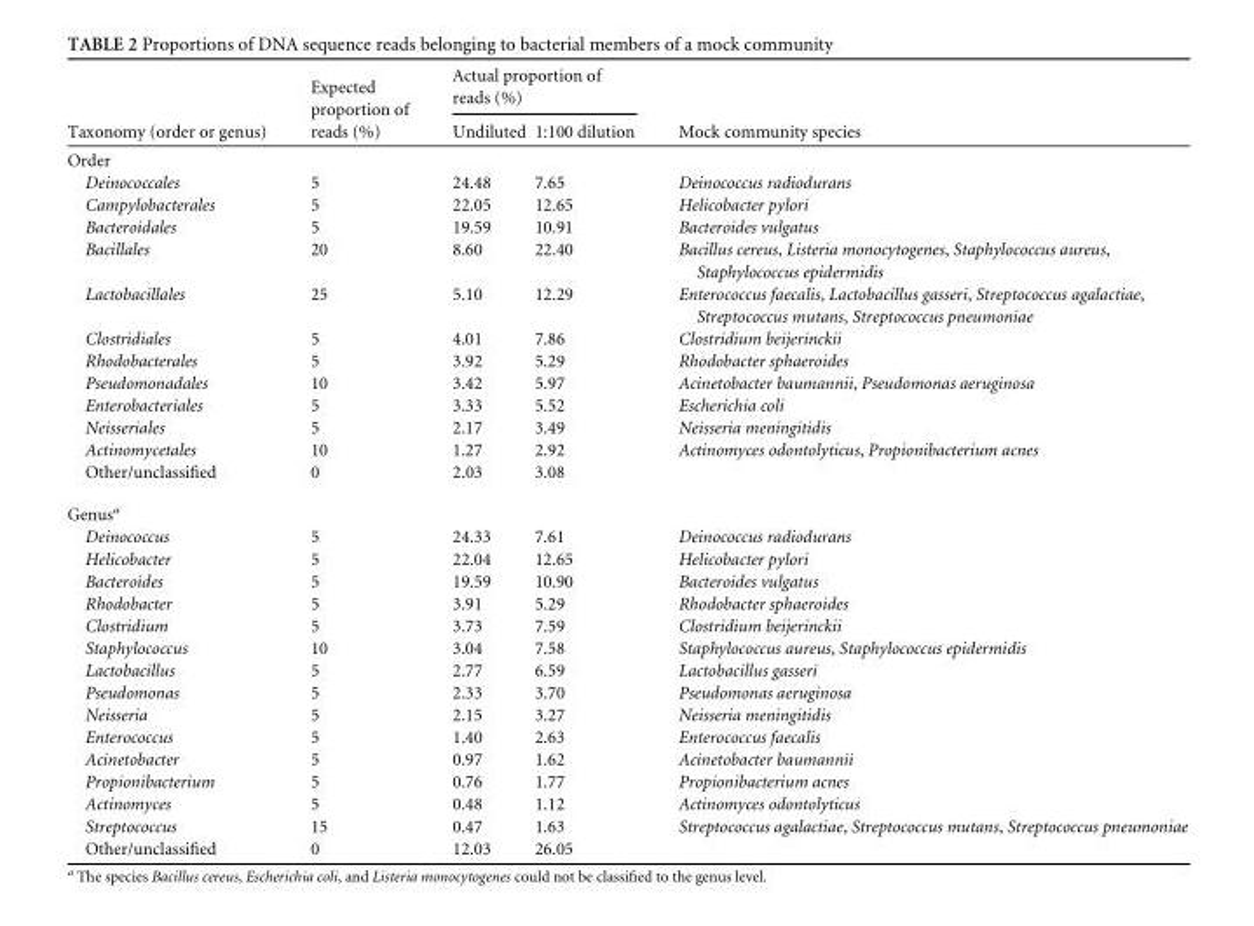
<table><thead><tr><td rowspan="2">Taxonomy (order or genus)</td><td rowspan="2">Expected proportion of reads (%)</td><td colspan="2">Actual proportion of reads (%)</td><td rowspan="2">Mock community species</td></tr><tr><td>Undiluted</td><td>1:100 dilution</td></tr></thead><tbody><tr><td colspan="5">Order</td></tr><tr><td>Deinococcales</td><td>5</td><td>24.48</td><td>7.65</td><td>Deinococcus radiodurans</td></tr><tr><td>Campylobacterales</td><td>5</td><td>22.05</td><td>12.65</td><td>Helicobacter pylori</td></tr><tr><td>Bacteroidales</td><td>5</td><td>19.59</td><td>10.91</td><td>Bacteroides vulgatus</td></tr><tr><td>Bacillales</td><td>20</td><td>8.60</td><td>22.40</td><td>Bacillus cereus, Listeria monocytogenes, Staphylococcus aureus, Staphylococcus epidermidis</td></tr><tr><td>Lactobacillales</td><td>25</td><td>5.10</td><td>12.29</td><td>Enterococcus faecalis, Lactobacillus gasseri, Streptococcus agalactiae, Streptococcus mutans, Streptococcus pneumoniae</td></tr><tr><td>Clostridiales</td><td>5</td><td>4.01</td><td>7.86</td><td>Clostridium beijerinckii</td></tr><tr><td>Rhodobacterales</td><td>5</td><td>3.92</td><td>5.29</td><td>Rhodobacter sphaeroides</td></tr><tr><td>Pseudomonadales</td><td>10</td><td>3.42</td><td>5.97</td><td>Acinetobacter baumannii, Pseudomonas aeruginosa</td></tr><tr><td>Enterobacteriales</td><td>5</td><td>3.33</td><td>5.52</td><td>Escherichia coli</td></tr><tr><td>Neisseriales</td><td>5</td><td>2.17</td><td>3.49</td><td>Neisseria meningitidis</td></tr><tr><td>Actinomycetales</td><td>10</td><td>1.27</td><td>2.92</td><td>Actinomyces odontolyticus, Propionibacterium acnes</td></tr><tr><td>Other/unclassified</td><td>0</td><td>2.03</td><td>3.08</td><td></td></tr><tr><td colspan="5">Genus<sup>a</sup></td></tr><tr><td>Deinococcus</td><td>5</td><td>24.33</td><td>7.61</td><td>Deinococcus radiodurans</td></tr><tr><td>Helicobacter</td><td>5</td><td>22.04</td><td>12.65</td><td>Helicobacter pylori</td></tr><tr><td>Bacteroides</td><td>5</td><td>19.59</td><td>10.90</td><td>Bacteroides vulgatus</td></tr><tr><td>Rhodobacter</td><td>5</td><td>3.91</td><td>5.29</td><td>Rhodobacter sphaeroides</td></tr><tr><td>Clostridium</td><td>5</td><td>3.73</td><td>7.59</td><td>Clostridium beijerinckii</td></tr><tr><td>Staphylococcus</td><td>10</td><td>3.04</td><td>7.58</td><td>Staphylococcus aureus, Staphylococcus epidermidis</td></tr><tr><td>Lactobacillus</td><td>5</td><td>2.77</td><td>6.59</td><td>Lactobacillus gasseri</td></tr><tr><td>Pseudomonas</td><td>5</td><td>2.33</td><td>3.70</td><td>Pseudomonas aeruginosa</td></tr><tr><td>Neisseria</td><td>5</td><td>2.15</td><td>3.27</td><td>Neisseria meningitidis</td></tr><tr><td>Enterococcus</td><td>5</td><td>1.40</td><td>2.63</td><td>Enterococcus faecalis</td></tr><tr><td>Acinetobacter</td><td>5</td><td>0.97</td><td>1.62</td><td>Acinetobacter baumannii</td></tr><tr><td>Propionibacterium</td><td>5</td><td>0.76</td><td>1.77</td><td>Propionibacterium acnes</td></tr><tr><td>Actinomyces</td><td>5</td><td>0.48</td><td>1.12</td><td>Actinomyces odontolyticus</td></tr><tr><td>Streptococcus</td><td>15</td><td>0.47</td><td>1.63</td><td>Streptococcus agalactiae, Streptococcus mutans, Streptococcus pneumoniae</td></tr><tr><td>Other/unclassified</td><td>0</td><td>12.03</td><td>26.05</td><td></td></tr></tbody></table>